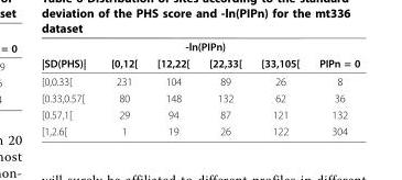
<table><thead><tr><td rowspan="2">|SD(PHS)|</td><td colspan="4">-ln(PIPn)</td><td rowspan="2">PIPn = 0</td></tr><tr><td>[0,12[</td><td>[12,22[</td><td>[22,33[</td><td>[33,105[</td></tr></thead><tbody><tr><td>[0,0.33[</td><td>231</td><td>104</td><td>89</td><td>26</td><td>8</td></tr><tr><td>[0.33,0.57[</td><td>80</td><td>148</td><td>132</td><td>62</td><td>36</td></tr><tr><td>[0.57,1[</td><td>29</td><td>94</td><td>87</td><td>121</td><td>132</td></tr><tr><td>[1,2.6[</td><td>1</td><td>19</td><td>26</td><td>122</td><td>304</td></tr></tbody></table>